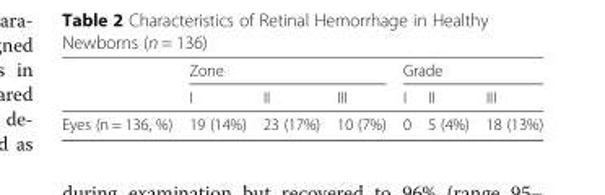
<table><thead><tr><td rowspan="2"></td><td colspan="3">Zone</td><td colspan="3">Grade</td></tr><tr><td>I</td><td>II</td><td>III</td><td>I</td><td>II</td><td>III</td></tr></thead><tbody><tr><td>Eyes (n = 136, %)</td><td>19 (14%)</td><td>23 (17%)</td><td>10 (7%)</td><td>0</td><td>5 (4%)</td><td>18 (13%)</td></tr></tbody></table>